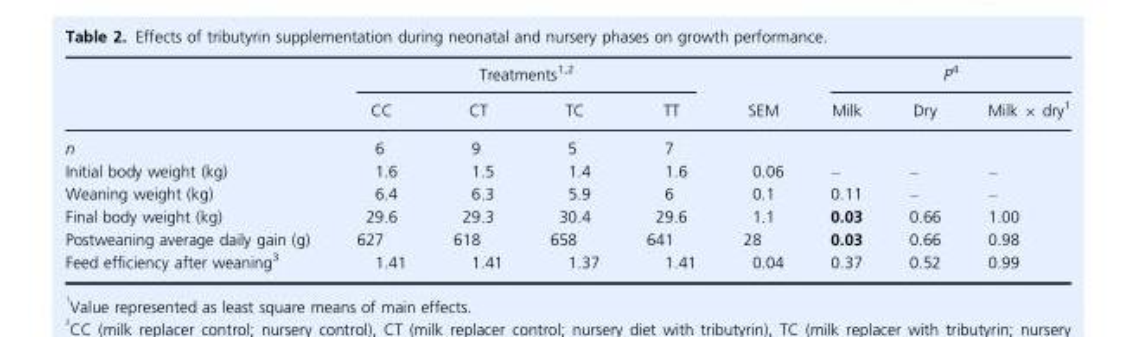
<table><thead><tr><td rowspan="2"></td><td colspan="4">Treatments1,2</td><td rowspan="2">SEM</td><td colspan="3">P4</td></tr><tr><td>CC</td><td>CT</td><td>TC</td><td>TT</td><td>Milk</td><td>Dry</td><td>Milk 9 dry1</td></tr></thead><tbody><tr><td>n</td><td>6</td><td>9</td><td>5</td><td>7</td><td></td><td></td><td></td><td></td></tr><tr><td>Initial body weight (kg)</td><td>1.6</td><td>1.5</td><td>1.4</td><td>1.6</td><td>0.06</td><td>–</td><td>–</td><td>–</td></tr><tr><td>Weaning weight (kg)</td><td>6.4</td><td>6.3</td><td>5.9</td><td>6</td><td>0.1</td><td>0.11</td><td>–</td><td>–</td></tr><tr><td>Final body weight (kg)</td><td>29.6</td><td>29.3</td><td>30.4</td><td>29.6</td><td>1.1</td><td>0.03</td><td>0.66</td><td>1.00</td></tr><tr><td>Postweaning average daily gain (g)</td><td>627</td><td>618</td><td>658</td><td>641</td><td>28</td><td>0.03</td><td>0.66</td><td>0.98</td></tr><tr><td>Feed efficiency after weaning3</td><td>1.41</td><td>1.41</td><td>1.37</td><td>1.41</td><td>0.04</td><td>0.37</td><td>0.52</td><td>0.99</td></tr></tbody></table>